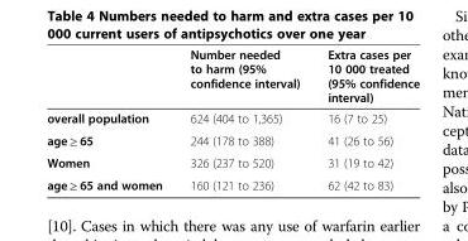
<table><thead><tr><td></td><td>Number needed to harm (95% confidence interval)</td><td>Extra cases per 10 000 treated (95% confidence interval)</td></tr></thead><tbody><tr><td>overall population</td><td>624 (404 to 1,365)</td><td>16 (7 to 25)</td></tr><tr><td>age ≥ 65</td><td>244 (178 to 388)</td><td>41 (26 to 56)</td></tr><tr><td>Women</td><td>326 (237 to 520)</td><td>31 (19 to 42)</td></tr><tr><td>age ≥ 65 and women</td><td>160 (121 to 236)</td><td>62 (42 to 83)</td></tr></tbody></table>